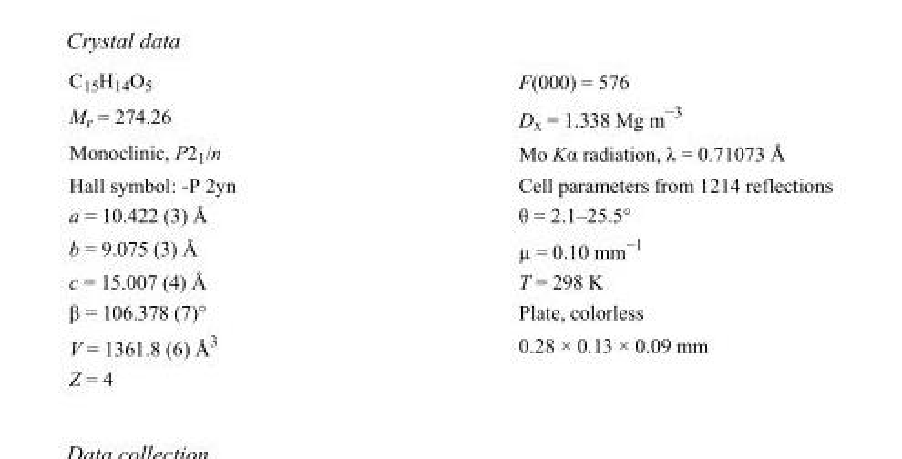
<table><tbody><tr><td>C<sub>15</sub>H<sub>14</sub>O<sub>5</sub></td><td>F(000) = 576</td></tr><tr><td>M<sub>r</sub> = 274.26</td><td>D<sub>x</sub> = 1.338 Mg m<sup>−3</sup></td></tr><tr><td>Monoclinic, P2<sub>1</sub>/n</td><td>Mo Kα radiation, λ = 0.71073 Å</td></tr><tr><td>Hall symbol: -P 2yn</td><td>Cell parameters from 1214 reflections</td></tr><tr><td>a = 10.422 (3) Å</td><td>θ = 2.1–25.5°</td></tr><tr><td>b = 9.075 (3) Å</td><td>µ = 0.10 mm<sup>−1</sup></td></tr><tr><td>c = 15.007 (4) Å</td><td>T = 298 K</td></tr><tr><td>β = 106.378 (7)°</td><td>Plate, colorless</td></tr><tr><td>V = 1361.8 (6) Å<sup>3</sup></td><td>0.28 × 0.13 × 0.09 mm</td></tr><tr><td>Z = 4</td><td></td></tr></tbody></table>